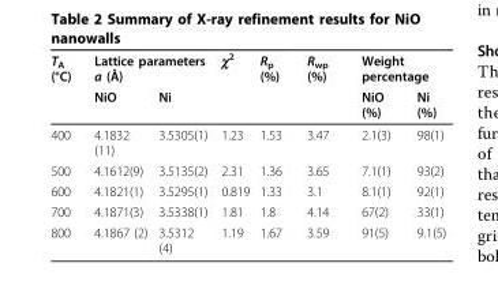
<table><thead><tr><td rowspan="2">T<sub>A</sub> (°C)</td><td colspan="2">Lattice parameters a (Å)</td><td rowspan="2">χ<sup>2</sup></td><td rowspan="2">R<sub>p</sub> (%)</td><td rowspan="2">R<sub>wp</sub> (%)</td><td colspan="2">Weight percentage</td></tr><tr><td>NiO</td><td>Ni</td><td>NiO (%)</td><td>Ni (%)</td></tr></thead><tbody><tr><td>400</td><td>4.1832 (11)</td><td>3.5305(1)</td><td>1.23</td><td>1.53</td><td>3.47</td><td>2.1(3)</td><td>98(1)</td></tr><tr><td>500</td><td>4.1612(9)</td><td>3.5135(2)</td><td>2.31</td><td>1.36</td><td>3.65</td><td>7.1(1)</td><td>93(2)</td></tr><tr><td>600</td><td>4.1821(1)</td><td>3.5295(1)</td><td>0.819</td><td>1.33</td><td>3.1</td><td>8.1(1)</td><td>92(1)</td></tr><tr><td>700</td><td>4.1871(3)</td><td>3.5338(1)</td><td>1.81</td><td>1.8</td><td>4.14</td><td>67(2)</td><td>33(1)</td></tr><tr><td>800</td><td>4.1867 (2)</td><td>3.5312 (4)</td><td>1.19</td><td>1.67</td><td>3.59</td><td>91(5)</td><td>9.1(5)</td></tr></tbody></table>